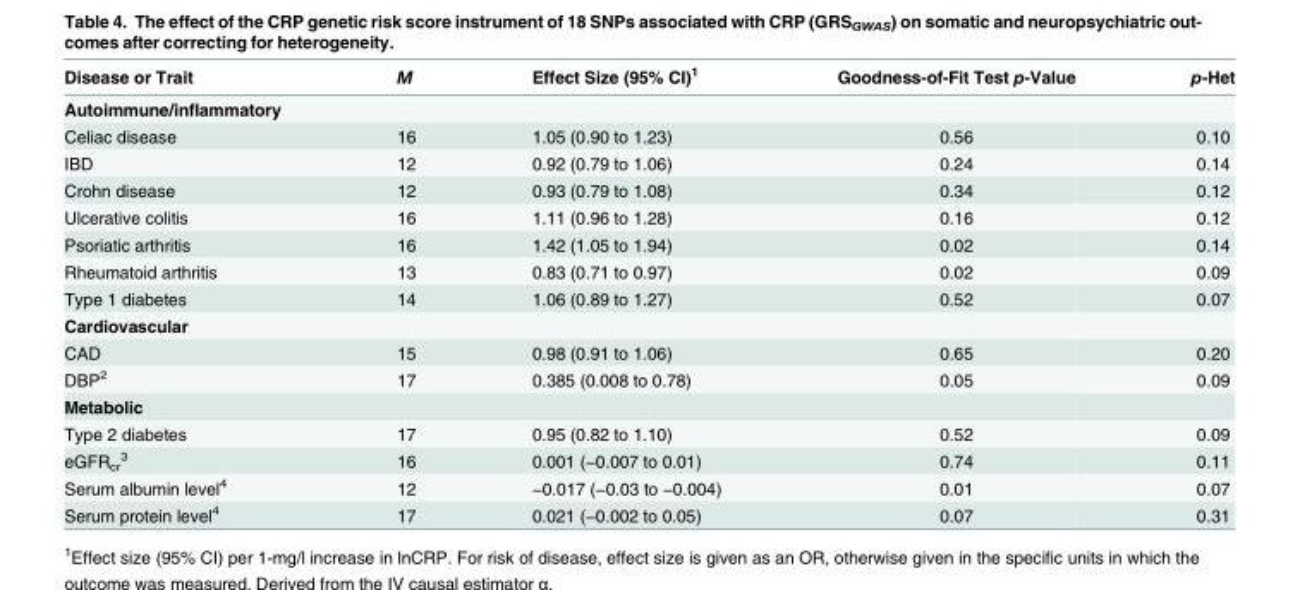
<table><thead><tr><td>Disease or Trait</td><td>M</td><td>Effect Size (95% CI)<sup>1</sup></td><td>Goodness-of-Fit Test p-Value</td><td>p-Het</td></tr></thead><tbody><tr><td colspan="5">Autoimmune/inflammatory</td></tr><tr><td>Celiac disease</td><td>16</td><td>1.05 (0.90 to 1.23)</td><td>0.56</td><td>0.10</td></tr><tr><td>IBD</td><td>12</td><td>0.92 (0.79 to 1.06)</td><td>0.24</td><td>0.14</td></tr><tr><td>Crohn disease</td><td>12</td><td>0.93 (0.79 to 1.08)</td><td>0.34</td><td>0.12</td></tr><tr><td>Ulcerative colitis</td><td>16</td><td>1.11 (0.96 to 1.28)</td><td>0.16</td><td>0.12</td></tr><tr><td>Psoriatic arthritis</td><td>16</td><td>1.42 (1.05 to 1.94)</td><td>0.02</td><td>0.14</td></tr><tr><td>Rheumatoid arthritis</td><td>13</td><td>0.83 (0.71 to 0.97)</td><td>0.02</td><td>0.09</td></tr><tr><td>Type 1 diabetes</td><td>14</td><td>1.06 (0.89 to 1.27)</td><td>0.52</td><td>0.07</td></tr><tr><td colspan="5">Cardiovascular</td></tr><tr><td>CAD</td><td>15</td><td>0.98 (0.91 to 1.06)</td><td>0.65</td><td>0.20</td></tr><tr><td>DBP<sup>2</sup></td><td>17</td><td>0.385 (0.008 to 0.78)</td><td>0.05</td><td>0.09</td></tr><tr><td colspan="5">Metabolic</td></tr><tr><td>Type 2 diabetes</td><td>17</td><td>0.95 (0.82 to 1.10)</td><td>0.52</td><td>0.09</td></tr><tr><td>eGFR<sub>cr</sub> <sup>3</sup></td><td>16</td><td>0.001 (−0.007 to 0.01)</td><td>0.74</td><td>0.11</td></tr><tr><td>Serum albumin level<sup>4</sup></td><td>12</td><td>−0.017 (−0.03 to −0.004)</td><td>0.01</td><td>0.07</td></tr><tr><td>Serum protein level<sup>4</sup></td><td>17</td><td>0.021 (−0.002 to 0.05)</td><td>0.07</td><td>0.31</td></tr></tbody></table>